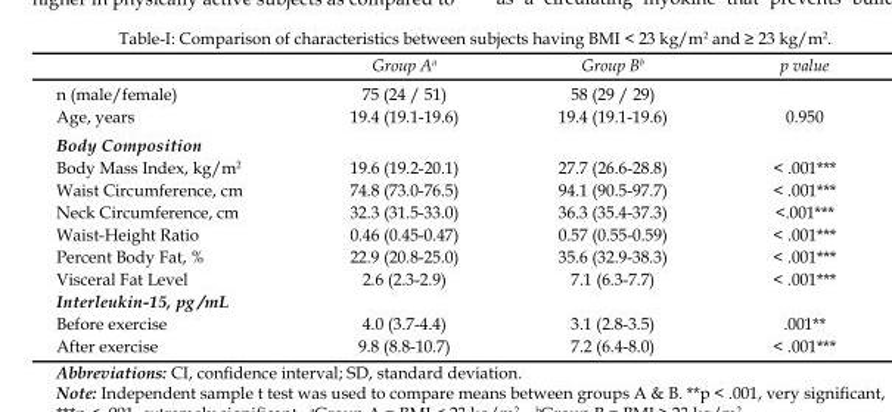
<table><thead><tr><td></td><td>Group A<sup>a</sup></td><td>Group B<sup>b</sup></td><td>p value</td></tr></thead><tbody><tr><td>n (male/female)</td><td>75 (24 / 51)</td><td>58 (29 / 29)</td><td></td></tr><tr><td>Age, years</td><td>19.4 (19.1-19.6)</td><td>19.4 (19.1-19.6)</td><td>0.950</td></tr><tr><td colspan="4">Body Composition</td></tr><tr><td>Body Mass Index, kg/m<sup>2</sup></td><td>19.6 (19.2-20.1)</td><td>27.7 (26.6-28.8)</td><td>&lt; .001***</td></tr><tr><td>Waist Circumference, cm</td><td>74.8 (73.0-76.5)</td><td>94.1 (90.5-97.7)</td><td>&lt; .001***</td></tr><tr><td>Neck Circumference, cm</td><td>32.3 (31.5-33.0)</td><td>36.3 (35.4-37.3)</td><td>&lt;.001***</td></tr><tr><td>Waist-Height Ratio</td><td>0.46 (0.45-0.47)</td><td>0.57 (0.55-0.59)</td><td>&lt; .001***</td></tr><tr><td>Percent Body Fat, %</td><td>22.9 (20.8-25.0)</td><td>35.6 (32.9-38.3)</td><td>&lt; .001***</td></tr><tr><td>Visceral Fat Level</td><td>2.6 (2.3-2.9)</td><td>7.1 (6.3-7.7)</td><td>&lt; .001***</td></tr><tr><td colspan="4">Interleukin-15, pg /mL</td></tr><tr><td>Before exercise</td><td>4.0 (3.7-4.4)</td><td>3.1 (2.8-3.5)</td><td>.001**</td></tr><tr><td>After exercise</td><td>9.8 (8.8-10.7)</td><td>7.2 (6.4-8.0)</td><td>&lt; .001***</td></tr></tbody></table>